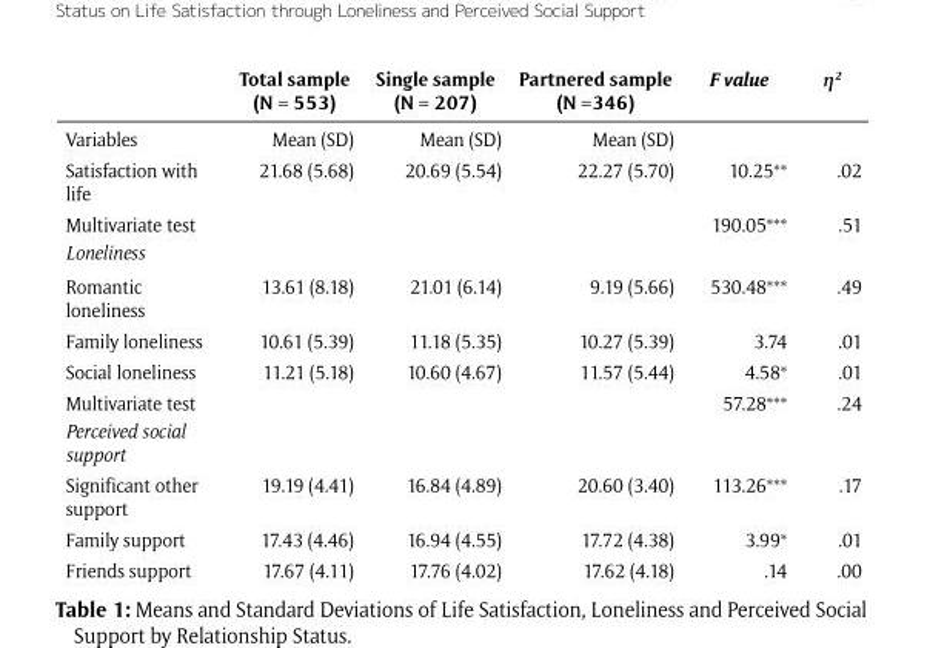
<table><thead><tr><td></td><td>Total sample (N = 553)</td><td>Single sample (N = 207)</td><td>Partnered sample (N =346)</td><td>F value</td><td>η<sup>2</sup></td></tr></thead><tbody><tr><td>Variables</td><td>Mean (SD)</td><td>Mean (SD)</td><td>Mean (SD)</td><td></td><td></td></tr><tr><td>Satisfaction with life</td><td>21.68 (5.68)</td><td>20.69 (5.54)</td><td>22.27 (5.70)</td><td>10.25**</td><td>.02</td></tr><tr><td>Multivariate test</td><td></td><td></td><td></td><td>190.05***</td><td>.51</td></tr><tr><td colspan="6">Loneliness</td></tr><tr><td>Romantic loneliness</td><td>13.61 (8.18)</td><td>21.01 (6.14)</td><td>9.19 (5.66)</td><td>530.48***</td><td>.49</td></tr><tr><td>Family loneliness</td><td>10.61 (5.39)</td><td>11.18 (5.35)</td><td>10.27 (5.39)</td><td>3.74</td><td>.01</td></tr><tr><td>Social loneliness</td><td>11.21 (5.18)</td><td>10.60 (4.67)</td><td>11.57 (5.44)</td><td>4.58*</td><td>.01</td></tr><tr><td>Multivariate test</td><td></td><td></td><td></td><td>57.28***</td><td>.24</td></tr><tr><td colspan="6">Perceived social support</td></tr><tr><td>Significant other support</td><td>19.19 (4.41)</td><td>16.84 (4.89)</td><td>20.60 (3.40)</td><td>113.26***</td><td>.17</td></tr><tr><td>Family support</td><td>17.43 (4.46)</td><td>16.94 (4.55)</td><td>17.72 (4.38)</td><td>3.99*</td><td>.01</td></tr><tr><td>Friends support</td><td>17.67 (4.11)</td><td>17.76 (4.02)</td><td>17.62 (4.18)</td><td>.14</td><td>.00</td></tr></tbody></table>